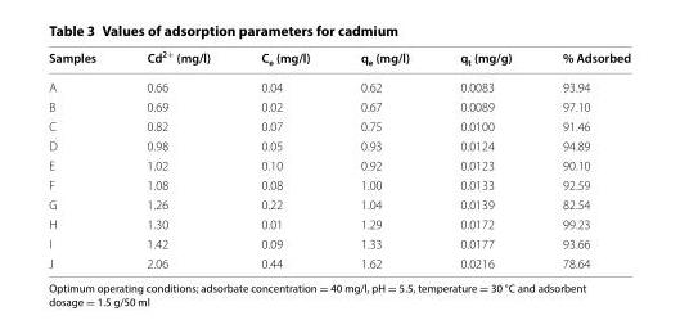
<table><thead><tr><td>Samples</td><td>Cd<sup>2+</sup> (mg/l)</td><td>C<sub>e</sub> (mg/l)</td><td>q<sub>e</sub> (mg/l)</td><td>q<sub>t</sub> (mg/g)</td><td>% Adsorbed</td></tr></thead><tbody><tr><td>A</td><td>0.66</td><td>0.04</td><td>0.62</td><td>0.0083</td><td>93.94</td></tr><tr><td>B</td><td>0.69</td><td>0.02</td><td>0.67</td><td>0.0089</td><td>97.10</td></tr><tr><td>C</td><td>0.82</td><td>0.07</td><td>0.75</td><td>0.0100</td><td>91.46</td></tr><tr><td>D</td><td>0.98</td><td>0.05</td><td>0.93</td><td>0.0124</td><td>94.89</td></tr><tr><td>E</td><td>1.02</td><td>0.10</td><td>0.92</td><td>0.0123</td><td>90.10</td></tr><tr><td>F</td><td>1.08</td><td>0.08</td><td>1.00</td><td>0.0133</td><td>92.59</td></tr><tr><td>G</td><td>1.26</td><td>0.22</td><td>1.04</td><td>0.0139</td><td>82.54</td></tr><tr><td>H</td><td>1.30</td><td>0.01</td><td>1.29</td><td>0.0172</td><td>99.23</td></tr><tr><td>I</td><td>1.42</td><td>0.09</td><td>1.33</td><td>0.0177</td><td>93.66</td></tr><tr><td>J</td><td>2.06</td><td>0.44</td><td>1.62</td><td>0.0216</td><td>78.64</td></tr></tbody></table>